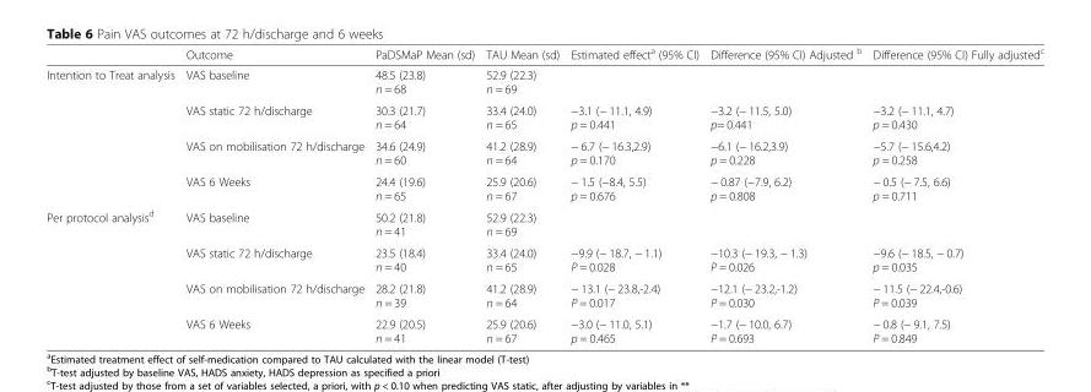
<table><thead><tr><td></td><td>Outcome</td><td>PaDSMaP Mean (sd)</td><td>TAU Mean (sd)</td><td>Estimated effect<sup>a</sup> (95% CI)</td><td>Difference (95% CI) Adjusted <sup>b</sup></td><td>Difference (95% CI) Fully adjusted<sup>c</sup></td></tr></thead><tbody><tr><td rowspan="4">Intention to Treat analysis</td><td>VAS baseline</td><td>48.5 (23.8) n = 68</td><td>52.9 (22.3) n = 69</td><td></td><td></td><td></td></tr><tr><td>VAS static 72 h/discharge</td><td>30.3 (21.7) n = 64</td><td>33.4 (24.0) n = 65</td><td>−3.1 (− 11.1, 4.9) p = 0.441</td><td>−3.2 (− 11.5, 5.0) p= 0.441</td><td>−3.2 (− 11.1, 4.7) p = 0.430</td></tr><tr><td>VAS on mobilisation 72 h/discharge</td><td>34.6 (24.9) n = 60</td><td>41.2 (28.9) n = 64</td><td>− 6.7 (− 16.3,2.9) p = 0.170</td><td>−6.1 (− 16.2,3.9) p = 0.228</td><td>−5.7 (− 15.6,4.2) p = 0.258</td></tr><tr><td>VAS 6 Weeks</td><td>24.4 (19.6) n = 65</td><td>25.9 (20.6) n = 67</td><td>− 1.5 (−8.4, 5.5) p = 0.676</td><td>− 0.87 (−7.9, 6.2) p = 0.808</td><td>− 0.5 (− 7.5, 6.6) p = 0.711</td></tr><tr><td rowspan="4">Per protocol analysis<sup>d</sup></td><td>VAS baseline</td><td>50.2 (21.8) n = 41</td><td>52.9 (22.3) n = 69</td><td></td><td></td><td></td></tr><tr><td>VAS static 72 h/discharge</td><td>23.5 (18.4) n = 40</td><td>33.4 (24.0) n = 65</td><td>−9.9 (− 18.7, − 1.1) P = 0.028</td><td>−10.3 (− 19.3, − 1.3) P = 0.026</td><td>−9.6 (− 18.5, − 0.7) p = 0.035</td></tr><tr><td>VAS on mobilisation 72 h/discharge</td><td>28.2 (21.8) n = 39</td><td>41.2 (28.9) n = 64</td><td>− 13.1 (− 23.8,-2.4) P = 0.017</td><td>−12.1 (− 23.2,-1.2) P = 0.030</td><td>− 11.5 (− 22.4,-0.6) P = 0.039</td></tr><tr><td>VAS 6 Weeks</td><td>22.9 (20.5) n = 41</td><td>25.9 (20.6) n = 67</td><td>−3.0 (− 11.0, 5.1) p = 0.465</td><td>−1.7 (− 10.0, 6.7) P = 0.693</td><td>− 0.8 (− 9.1, 7.5) P = 0.849</td></tr></tbody></table>